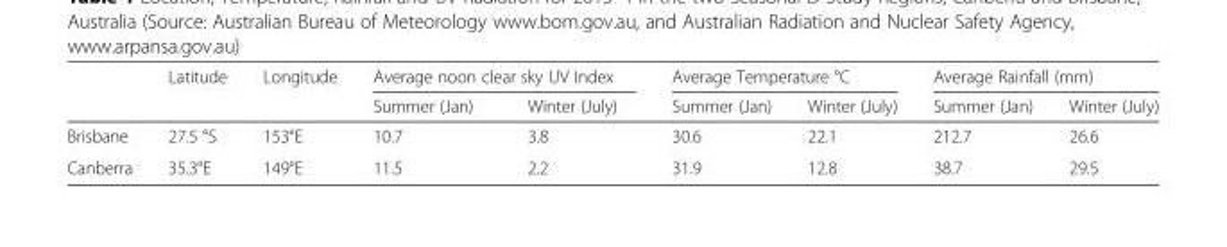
<table><thead><tr><td rowspan="2"></td><td rowspan="2">Latitude</td><td rowspan="2">Longitude</td><td colspan="2">Average noon clear sky UV Index</td><td colspan="2">Average Temperature °C</td><td colspan="2">Average Rainfall (mm)</td></tr><tr><td>Summer (Jan)</td><td>Winter (July)</td><td>Summer (Jan)</td><td>Winter (July)</td><td>Summer (Jan)</td><td>Winter (July)</td></tr></thead><tbody><tr><td>Brisbane</td><td>27.5 °S</td><td>153°E</td><td>10.7</td><td>3.8</td><td>30.6</td><td>22.1</td><td>212.7</td><td>26.6</td></tr><tr><td>Canberra</td><td>35.3°E</td><td>149°E</td><td>11.5</td><td>2.2</td><td>31.9</td><td>12.8</td><td>38.7</td><td>29.5</td></tr></tbody></table>